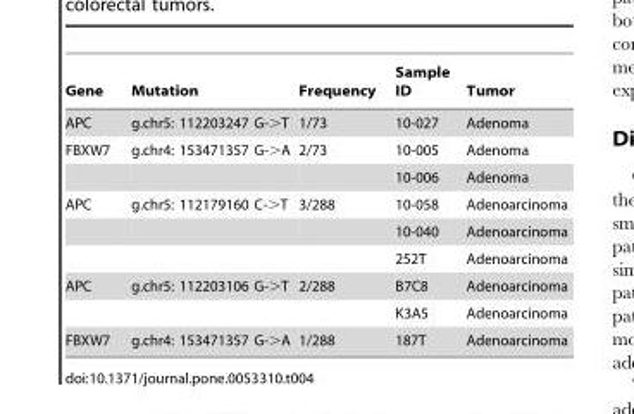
<table><thead><tr><td>Gene</td><td>Mutation</td><td>Frequency</td><td>Sample ID</td><td>Tumor</td></tr></thead><tbody><tr><td>APC</td><td>g.chr5: 112203247 G-&gt;T</td><td>1/73</td><td>10-027</td><td>Adenoma</td></tr><tr><td rowspan="2">FBXW7</td><td>g.chr4: 153471357 G-&gt;A</td><td>2/73</td><td>10-005</td><td>Adenoma</td></tr><tr><td></td><td></td><td>10-006</td><td>Adenoma</td></tr><tr><td rowspan="3">APC</td><td>g.chr5: 112179160 C-&gt;T</td><td>3/288</td><td>10-058</td><td>Adenoarcinoma</td></tr><tr><td></td><td></td><td>10-040</td><td>Adenoarcinoma</td></tr><tr><td></td><td></td><td>252T</td><td>Adenoarcinoma</td></tr><tr><td rowspan="2">APC</td><td>g.chr5: 112203106 G-&gt;T</td><td>2/288</td><td>B7C8</td><td>Adenoarcinoma</td></tr><tr><td></td><td></td><td>K3A5</td><td>Adenoarcinoma</td></tr><tr><td>FBXW7</td><td>g.chr4: 153471357 G-&gt;A</td><td>1/288</td><td>187T</td><td>Adenoarcinoma</td></tr></tbody></table>